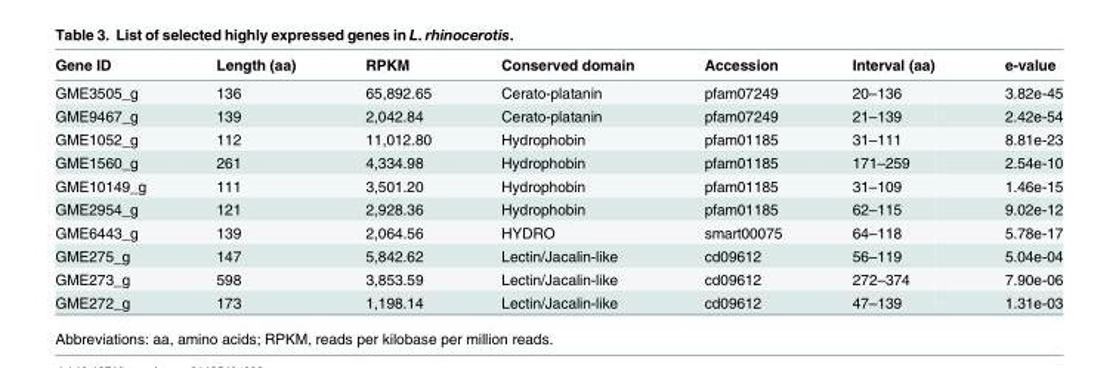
<table><thead><tr><td>Gene ID</td><td>Length (aa)</td><td>RPKM</td><td>Conserved domain</td><td>Accession</td><td>Interval (aa)</td><td>e-value</td></tr></thead><tbody><tr><td>GME3505_g</td><td>136</td><td>65,892.65</td><td>Cerato-platanin</td><td>pfam07249</td><td>20–136</td><td>3.82e-45</td></tr><tr><td>GME9467_g</td><td>139</td><td>2,042.84</td><td>Cerato-platanin</td><td>pfam07249</td><td>21–139</td><td>2.42e-54</td></tr><tr><td>GME1052_g</td><td>112</td><td>11,012.80</td><td>Hydrophobin</td><td>pfam01185</td><td>31–111</td><td>8.81e-23</td></tr><tr><td>GME1560_g</td><td>261</td><td>4,334.98</td><td>Hydrophobin</td><td>pfam01185</td><td>171–259</td><td>2.54e-10</td></tr><tr><td>GME10149_g</td><td>111</td><td>3,501.20</td><td>Hydrophobin</td><td>pfam01185</td><td>31–109</td><td>1.46e-15</td></tr><tr><td>GME2954_g</td><td>121</td><td>2,928.36</td><td>Hydrophobin</td><td>pfam01185</td><td>62–115</td><td>9.02e-12</td></tr><tr><td>GME6443_g</td><td>139</td><td>2,064.56</td><td>HYDRO</td><td>smart00075</td><td>64–118</td><td>5.78e-17</td></tr><tr><td>GME275_g</td><td>147</td><td>5,842.62</td><td>Lectin/Jacalin-like</td><td>cd09612</td><td>56–119</td><td>5.04e-04</td></tr><tr><td>GME273_g</td><td>598</td><td>3,853.59</td><td>Lectin/Jacalin-like</td><td>cd09612</td><td>272–374</td><td>7.90e-06</td></tr><tr><td>GME272_g</td><td>173</td><td>1,198.14</td><td>Lectin/Jacalin-like</td><td>cd09612</td><td>47–139</td><td>1.31e-03</td></tr></tbody></table>